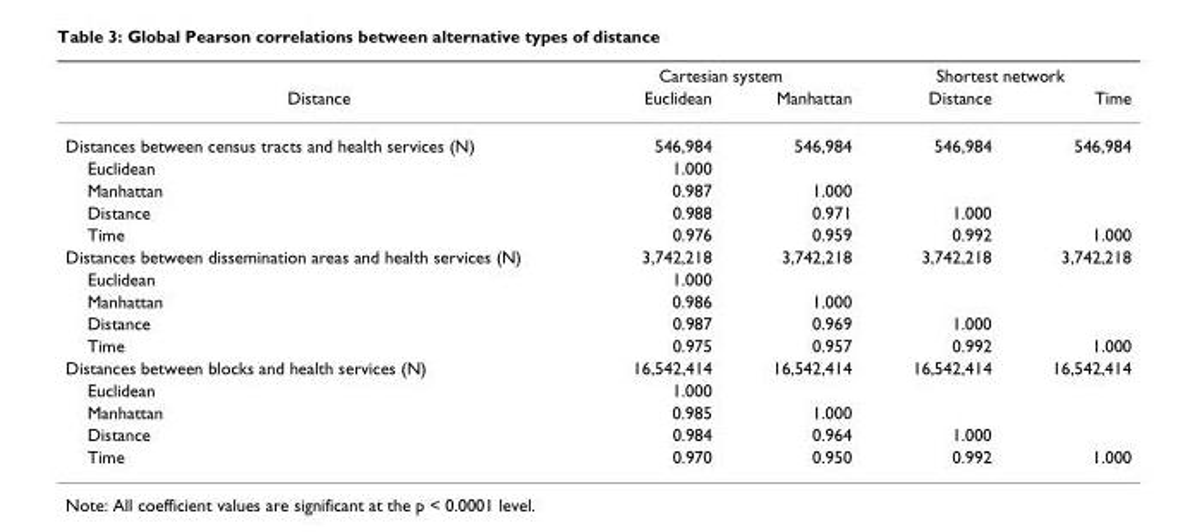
<table><thead><tr><td rowspan="2">Distance</td><td colspan="2">Cartesian system</td><td colspan="2">Shortest network</td></tr><tr><td>Euclidean</td><td>Manhattan</td><td>Distance</td><td>Time</td></tr></thead><tbody><tr><td>Distances between census tracts and health services (N)</td><td>546,984</td><td>546,984</td><td>546,984</td><td>546,984</td></tr><tr><td>Euclidean</td><td>1.000</td><td></td><td></td><td></td></tr><tr><td>Manhattan</td><td>0.987</td><td>1.000</td><td></td><td></td></tr><tr><td>Distance</td><td>0.988</td><td>0.971</td><td>1.000</td><td></td></tr><tr><td>Time</td><td>0.976</td><td>0.959</td><td>0.992</td><td>1.000</td></tr><tr><td>Distances between dissemination areas and health services (N)</td><td>3,742,218</td><td>3,742,218</td><td>3,742,218</td><td>3,742,218</td></tr><tr><td>Euclidean</td><td>1.000</td><td></td><td></td><td></td></tr><tr><td>Manhattan</td><td>0.986</td><td>1.000</td><td></td><td></td></tr><tr><td>Distance</td><td>0.987</td><td>0.969</td><td>1.000</td><td></td></tr><tr><td>Time</td><td>0.975</td><td>0.957</td><td>0.992</td><td>1.000</td></tr><tr><td>Distances between blocks and health services (N)</td><td>16,542,414</td><td>16,542,414</td><td>16,542,414</td><td>16,542,414</td></tr><tr><td>Euclidean</td><td>1.000</td><td></td><td></td><td></td></tr><tr><td>Manhattan</td><td>0.985</td><td>1.000</td><td></td><td></td></tr><tr><td>Distance</td><td>0.984</td><td>0.964</td><td>1.000</td><td></td></tr><tr><td>Time</td><td>0.970</td><td>0.950</td><td>0.992</td><td>1.000</td></tr></tbody></table>